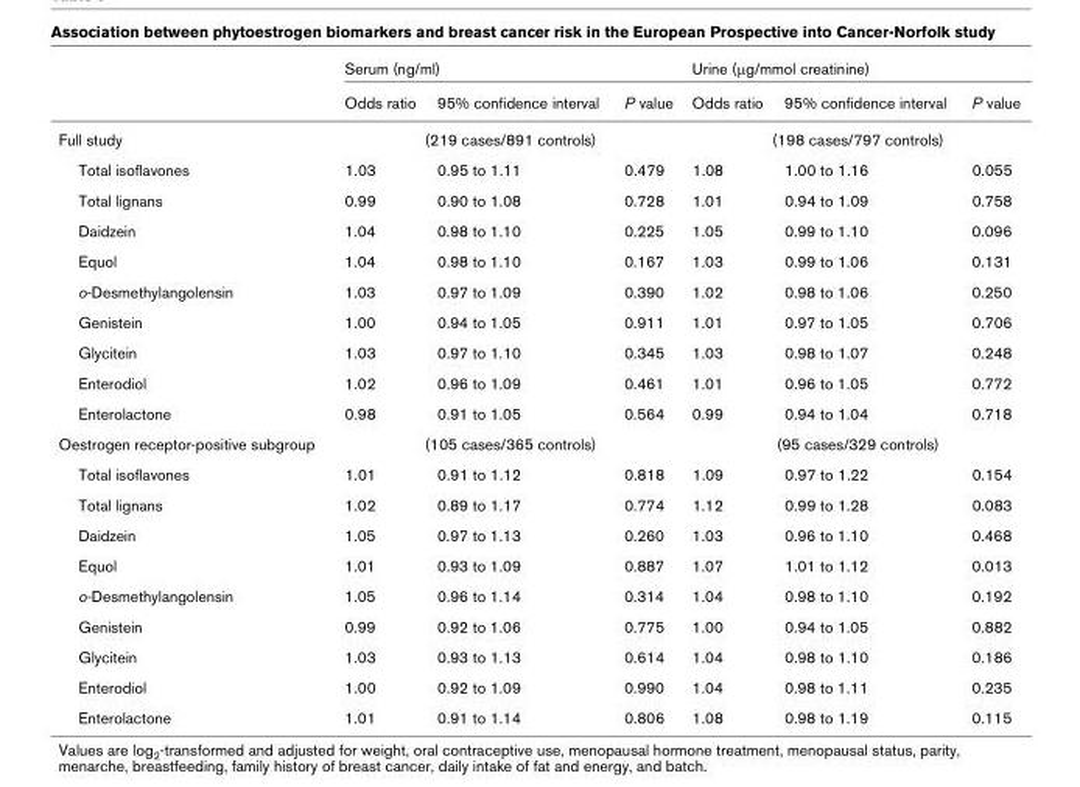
<table><thead><tr><td rowspan="2"></td><td colspan="3">Serum (ng/ml)</td><td colspan="3">Urine (μg/mmol creatinine)</td></tr><tr><td>Odds ratio</td><td>95% confidence interval</td><td>P value</td><td>Odds ratio</td><td>95% confidence interval</td><td>P value</td></tr></thead><tbody><tr><td>Full study</td><td colspan="3">(219 cases/891 controls)</td><td colspan="3">(198 cases/797 controls)</td></tr><tr><td>Total isoflavones</td><td>1.03</td><td>0.95 to 1.11</td><td>0.479</td><td>1.08</td><td>1.00 to 1.16</td><td>0.055</td></tr><tr><td>Total lignans</td><td>0.99</td><td>0.90 to 1.08</td><td>0.728</td><td>1.01</td><td>0.94 to 1.09</td><td>0.758</td></tr><tr><td>Daidzein</td><td>1.04</td><td>0.98 to 1.10</td><td>0.225</td><td>1.05</td><td>0.99 to 1.10</td><td>0.096</td></tr><tr><td>Equol</td><td>1.04</td><td>0.98 to 1.10</td><td>0.167</td><td>1.03</td><td>0.99 to 1.06</td><td>0.131</td></tr><tr><td>o-Desmethylangolensin</td><td>1.03</td><td>0.97 to 1.09</td><td>0.390</td><td>1.02</td><td>0.98 to 1.06</td><td>0.250</td></tr><tr><td>Genistein</td><td>1.00</td><td>0.94 to 1.05</td><td>0.911</td><td>1.01</td><td>0.97 to 1.05</td><td>0.706</td></tr><tr><td>Glycitein</td><td>1.03</td><td>0.97 to 1.10</td><td>0.345</td><td>1.03</td><td>0.98 to 1.07</td><td>0.248</td></tr><tr><td>Enterodiol</td><td>1.02</td><td>0.96 to 1.09</td><td>0.461</td><td>1.01</td><td>0.96 to 1.05</td><td>0.772</td></tr><tr><td>Enterolactone</td><td>0.98</td><td>0.91 to 1.05</td><td>0.564</td><td>0.99</td><td>0.94 to 1.04</td><td>0.718</td></tr><tr><td>Oestrogen receptor-positive subgroup</td><td colspan="3">(105 cases/365 controls)</td><td colspan="3">(95 cases/329 controls)</td></tr><tr><td>Total isoflavones</td><td>1.01</td><td>0.91 to 1.12</td><td>0.818</td><td>1.09</td><td>0.97 to 1.22</td><td>0.154</td></tr><tr><td>Total lignans</td><td>1.02</td><td>0.89 to 1.17</td><td>0.774</td><td>1.12</td><td>0.99 to 1.28</td><td>0.083</td></tr><tr><td>Daidzein</td><td>1.05</td><td>0.97 to 1.13</td><td>0.260</td><td>1.03</td><td>0.96 to 1.10</td><td>0.468</td></tr><tr><td>Equol</td><td>1.01</td><td>0.93 to 1.09</td><td>0.887</td><td>1.07</td><td>1.01 to 1.12</td><td>0.013</td></tr><tr><td>o-Desmethylangolensin</td><td>1.05</td><td>0.96 to 1.14</td><td>0.314</td><td>1.04</td><td>0.98 to 1.10</td><td>0.192</td></tr><tr><td>Genistein</td><td>0.99</td><td>0.92 to 1.06</td><td>0.775</td><td>1.00</td><td>0.94 to 1.05</td><td>0.882</td></tr><tr><td>Glycitein</td><td>1.03</td><td>0.93 to 1.13</td><td>0.614</td><td>1.04</td><td>0.98 to 1.10</td><td>0.186</td></tr><tr><td>Enterodiol</td><td>1.00</td><td>0.92 to 1.09</td><td>0.990</td><td>1.04</td><td>0.98 to 1.11</td><td>0.235</td></tr><tr><td>Enterolactone</td><td>1.01</td><td>0.91 to 1.14</td><td>0.806</td><td>1.08</td><td>0.98 to 1.19</td><td>0.115</td></tr></tbody></table>